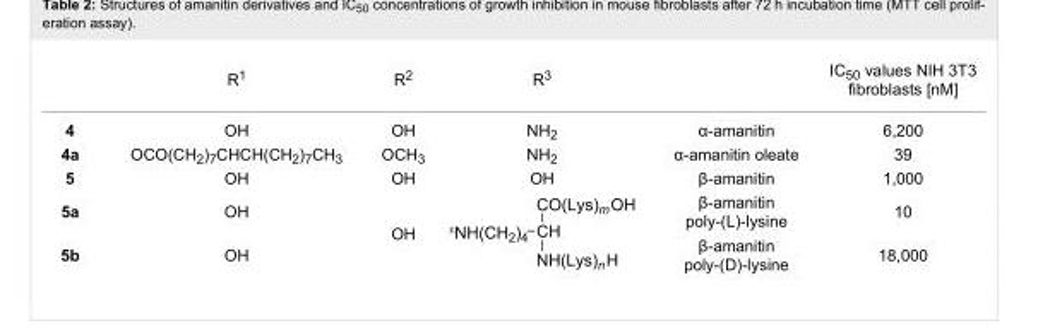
<table><thead><tr><td></td><td>R<sup>1</sup></td><td>R<sup>2</sup></td><td>R<sup>3</sup></td><td></td><td>IC<sub>50</sub> values NIH 3T3 fibroblasts [nM]</td></tr></thead><tbody><tr><td>4</td><td>OH</td><td>OH</td><td>NH<sub>2</sub></td><td>α-amanitin</td><td>6,200</td></tr><tr><td>4a</td><td>OCO(CH<sub>2</sub>)<sub>7</sub>CHCH(CH<sub>2</sub>)<sub>7</sub>CH<sub>3</sub></td><td>OCH<sub>3</sub></td><td>NH<sub>2</sub></td><td>α-amanitin oleate</td><td>39</td></tr><tr><td>5</td><td>OH</td><td>OH</td><td>OH</td><td>β-amanitin</td><td>1,000</td></tr><tr><td>5a</td><td>OH</td><td rowspan="2">OH</td><td rowspan="2"></td><td>β-amanitin poly-(L)-lysine</td><td>10</td></tr><tr><td>5b</td><td>OH</td><td>β-amanitin poly-(D)-lysine</td><td>18,000</td></tr></tbody></table>